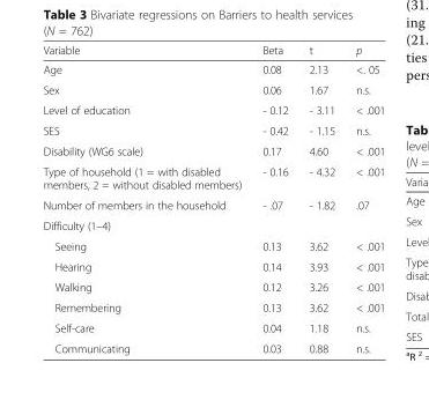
<table><thead><tr><td>Variable</td><td>Beta</td><td>t</td><td>p</td></tr></thead><tbody><tr><td>Age</td><td>0.08</td><td>2.13</td><td>&lt;. 05</td></tr><tr><td>Sex</td><td>0.06</td><td>1.67</td><td>n.s.</td></tr><tr><td>Level of education</td><td>- 0.12</td><td>- 3.11</td><td>&lt; .001</td></tr><tr><td>SES</td><td>- 0.42</td><td>- 1.15</td><td>n.s.</td></tr><tr><td>Disability (WG6 scale)</td><td>0.17</td><td>4.60</td><td>&lt; .001</td></tr><tr><td>Type of household (1 = with disabled members, 2 = without disabled members)</td><td>- 0.16</td><td>- 4.32</td><td>&lt; .001</td></tr><tr><td>Number of members in the household</td><td>- .07</td><td>- 1.82</td><td>.07</td></tr><tr><td colspan="4">Difficulty (1–4)</td></tr><tr><td>Seeing</td><td>0.13</td><td>3.62</td><td>&lt; .001</td></tr><tr><td>Hearing</td><td>0.14</td><td>3.93</td><td>&lt; .001</td></tr><tr><td>Walking</td><td>0.12</td><td>3.26</td><td>&lt; .001</td></tr><tr><td>Remembering</td><td>0.13</td><td>3.62</td><td>&lt; .001</td></tr><tr><td>Self-care</td><td>0.04</td><td>1.18</td><td>n.s.</td></tr><tr><td>Communicating</td><td>0.03</td><td>0.88</td><td>n.s.</td></tr></tbody></table>